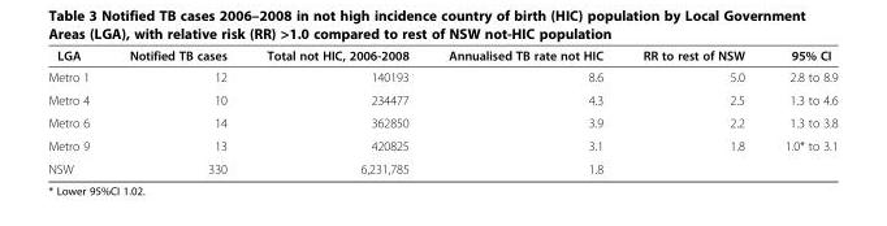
<table><thead><tr><td>LGA</td><td>Notified TB cases</td><td>Total not HIC, 2006-2008</td><td>Annualised TB rate not HIC</td><td>RR to rest of NSW</td><td>95% CI</td></tr></thead><tbody><tr><td>Metro 1</td><td>12</td><td>140193</td><td>8.6</td><td>5.0</td><td>2.8 to 8.9</td></tr><tr><td>Metro 4</td><td>10</td><td>234477</td><td>4.3</td><td>2.5</td><td>1.3 to 4.6</td></tr><tr><td>Metro 6</td><td>14</td><td>362850</td><td>3.9</td><td>2.2</td><td>1.3 to 3.8</td></tr><tr><td>Metro 9</td><td>13</td><td>420825</td><td>3.1</td><td>1.8</td><td>1.0* to 3.1</td></tr><tr><td>NSW</td><td>330</td><td>6,231,785</td><td>1.8</td><td></td><td></td></tr></tbody></table>